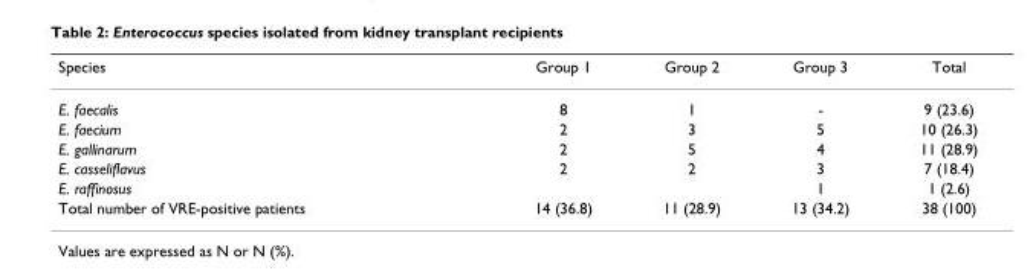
<table><thead><tr><td>Species</td><td>Group 1</td><td>Group 2</td><td>Group 3</td><td>Total</td></tr></thead><tbody><tr><td>E. faecalis</td><td>8</td><td>1</td><td>-</td><td>9 (23.6)</td></tr><tr><td>E. faecium</td><td>2</td><td>3</td><td>5</td><td>10 (26.3)</td></tr><tr><td>E. gallinarum</td><td>2</td><td>5</td><td>4</td><td>11 (28.9)</td></tr><tr><td>E. casseliflavus</td><td>2</td><td>2</td><td>3</td><td>7 (18.4)</td></tr><tr><td>E. raffinosus</td><td></td><td></td><td>1</td><td>1 (2.6)</td></tr><tr><td>Total number of VRE-positive patients</td><td>14 (36.8)</td><td>11 (28.9)</td><td>13 (34.2)</td><td>38 (100)</td></tr></tbody></table>